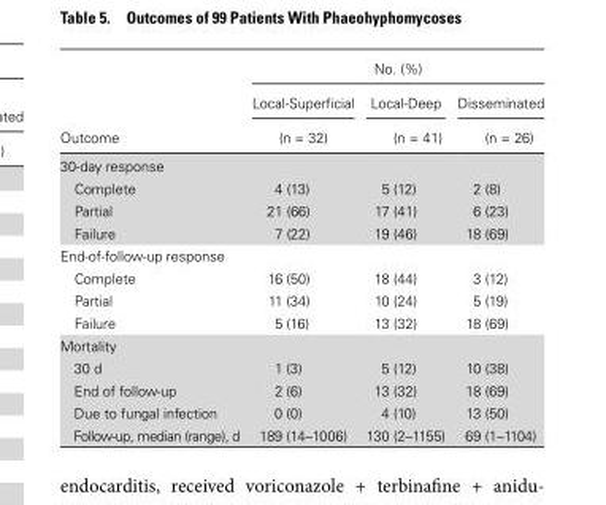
<table><thead><tr><td rowspan="3">Outcome</td><td colspan="3">No. (%)</td></tr><tr><td rowspan="2">Local-Superficial (n = 32)</td><td rowspan="2">Local-Deep (n = 41)</td><td rowspan="2">Disseminated (n = 26)</td></tr><tr></tr></thead><tbody><tr><td colspan="4">30-day response</td></tr><tr><td>Complete</td><td>4 (13)</td><td>5 (12)</td><td>2 (8)</td></tr><tr><td>Partial</td><td>21 (66)</td><td>17 (41)</td><td>6 (23)</td></tr><tr><td>Failure</td><td>7 (22)</td><td>19 (46)</td><td>18 (69)</td></tr><tr><td colspan="4">End-of-follow-up response</td></tr><tr><td>Complete</td><td>16 (50)</td><td>18 (44)</td><td>3 (12)</td></tr><tr><td>Partial</td><td>11 (34)</td><td>10 (24)</td><td>5 (19)</td></tr><tr><td>Failure</td><td>5 (16)</td><td>13 (32)</td><td>18 (69)</td></tr><tr><td colspan="4">Mortality</td></tr><tr><td>30 d</td><td>1 (3)</td><td>5 (12)</td><td>10 (38)</td></tr><tr><td>End of follow-up</td><td>2 (6)</td><td>13 (32)</td><td>18 (69)</td></tr><tr><td>Due to fungal infection</td><td>0 (0)</td><td>4 (10)</td><td>13 (50)</td></tr><tr><td>Follow-up, median (range), d</td><td>189 (14–1006)</td><td>130 (2–1155)</td><td>69 (1–1104)</td></tr></tbody></table>